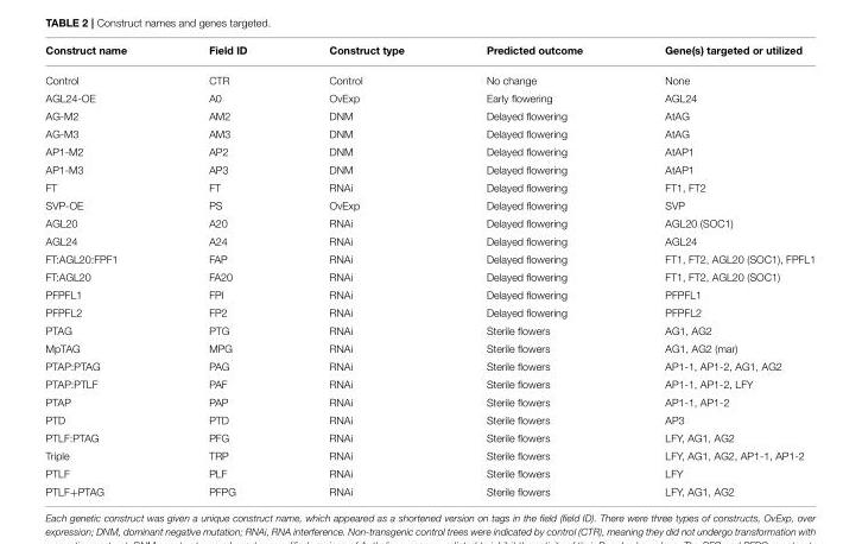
<table><thead><tr><td>Construct name</td><td>Field ID</td><td>Construct type</td><td>Predicted outcome</td><td>Gene(s) targeted or utilized</td></tr></thead><tbody><tr><td>Control</td><td>CTR</td><td>Control</td><td>No change</td><td>None</td></tr><tr><td>AGL24-OE</td><td>A0</td><td>OvExp</td><td>Early flowering</td><td>AGL24</td></tr><tr><td>AG-M2</td><td>AM2</td><td>DNM</td><td>Delayed flowering</td><td>AtAG</td></tr><tr><td>AG-M3</td><td>AM3</td><td>DNM</td><td>Delayed flowering</td><td>AtAG</td></tr><tr><td>AP1-M2</td><td>AP2</td><td>DNM</td><td>Delayed flowering</td><td>AtAP1</td></tr><tr><td>AP1-M3</td><td>AP3</td><td>DNM</td><td>Delayed flowering</td><td>AtAP1</td></tr><tr><td>FT</td><td>FT</td><td>RNAi</td><td>Delayed flowering</td><td>FT1, FT2</td></tr><tr><td>SVP-OE</td><td>PS</td><td>OvExp</td><td>Delayed flowering</td><td>SVP</td></tr><tr><td>AGL20</td><td>A20</td><td>RNAi</td><td>Delayed flowering</td><td>AGL20 (SOC1)</td></tr><tr><td>AGL24</td><td>A24</td><td>RNAi</td><td>Delayed flowering</td><td>AGL24</td></tr><tr><td>FT:AGL20:FPF1</td><td>FAP</td><td>RNAi</td><td>Delayed flowering</td><td>FT1, FT2, AGL20 (SOC1), FPFL1</td></tr><tr><td>FT:AGL20</td><td>FA20</td><td>RNAi</td><td>Delayed flowering</td><td>FT1, FT2, AGL20 (SOC1)</td></tr><tr><td>PFPFL1</td><td>FPI</td><td>RNAi</td><td>Delayed flowering</td><td>PFPFL1</td></tr><tr><td>PFPFL2</td><td>FP2</td><td>RNAi</td><td>Delayed flowering</td><td>PFPFL2</td></tr><tr><td>PTAG</td><td>PTG</td><td>RNAi</td><td>Sterile flowers</td><td>AG1, AG2</td></tr><tr><td>MpTAG</td><td>MPG</td><td>RNAi</td><td>Sterile flowers</td><td>AG1, AG2 (mar)</td></tr><tr><td>PTAP:PTAG</td><td>PAG</td><td>RNAi</td><td>Sterile flowers</td><td>AP1-1, AP1-2, AG1, AG2</td></tr><tr><td>PTAP:PTLF</td><td>PAF</td><td>RNAi</td><td>Sterile flowers</td><td>AP1-1, AP1-2, LFY</td></tr><tr><td>PTAP</td><td>PAP</td><td>RNAi</td><td>Sterile flowers</td><td>AP1-1, AP1-2</td></tr><tr><td>PTD</td><td>PTD</td><td>RNAi</td><td>Sterile flowers</td><td>AP3</td></tr><tr><td>PTLF:PTAG</td><td>PFG</td><td>RNAi</td><td>Sterile flowers</td><td>LFY, AG1, AG2</td></tr><tr><td>Triple</td><td>TRP</td><td>RNAi</td><td>Sterile flowers</td><td>LFY, AG1, AG2, AP1-1, AP1-2</td></tr><tr><td>PTLF</td><td>PLF</td><td>RNAi</td><td>Sterile flowers</td><td>LFY</td></tr><tr><td>PTLF+PTAG</td><td>PFPG</td><td>RNAi</td><td>Sterile flowers</td><td>LFY, AG1, AG2</td></tr></tbody></table>